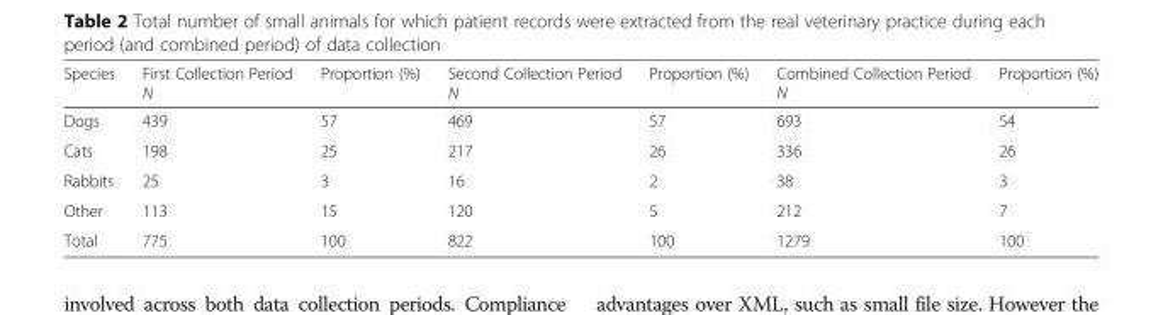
<table><thead><tr><td>Species</td><td>First Collection Period N</td><td>Proportion (%)</td><td>Second Collection Period N</td><td>Proportion (%)</td><td>Combined Collection Period N</td><td>Proportion (%)</td></tr></thead><tbody><tr><td>Dogs</td><td>439</td><td>57</td><td>469</td><td>57</td><td>693</td><td>54</td></tr><tr><td>Cats</td><td>198</td><td>25</td><td>217</td><td>26</td><td>336</td><td>26</td></tr><tr><td>Rabbits</td><td>25</td><td>3</td><td>16</td><td>2</td><td>38</td><td>3</td></tr><tr><td>Other</td><td>113</td><td>15</td><td>120</td><td>5</td><td>212</td><td>7</td></tr><tr><td>Total</td><td>775</td><td>100</td><td>822</td><td>100</td><td>1279</td><td>100</td></tr></tbody></table>